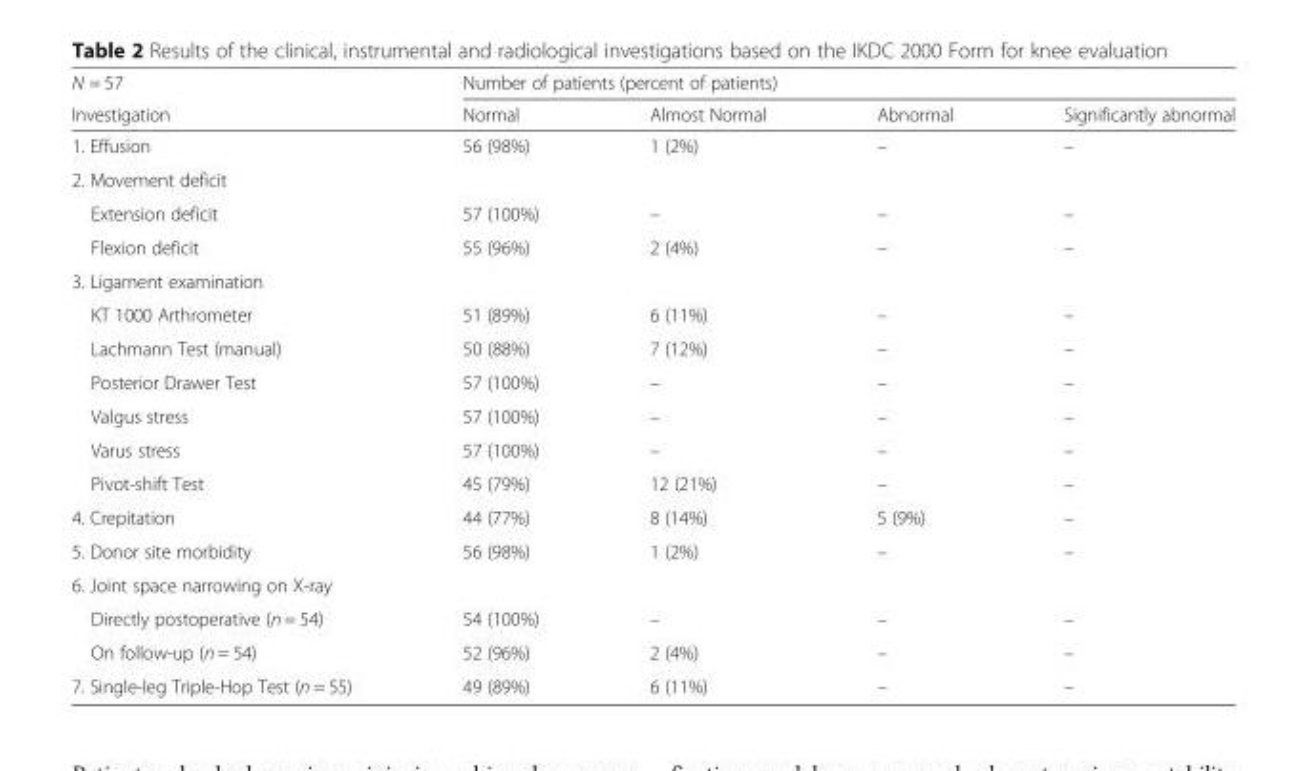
<table><thead><tr><td rowspan="2">N = 57 Investigation</td><td colspan="4">Number of patients (percent of patients)</td></tr><tr><td>Normal</td><td>Almost Normal</td><td>Abnormal</td><td>Significantly abnormal</td></tr></thead><tbody><tr><td>1. Effusion</td><td>56 (98%)</td><td>1 (2%)</td><td>–</td><td>–</td></tr><tr><td colspan="5">2. Movement deficit</td></tr><tr><td>Extension deficit</td><td>57 (100%)</td><td>–</td><td>–</td><td>–</td></tr><tr><td>Flexion deficit</td><td>55 (96%)</td><td>2 (4%)</td><td>–</td><td>–</td></tr><tr><td colspan="5">3. Ligament examination</td></tr><tr><td>KT 1000 Arthrometer</td><td>51 (89%)</td><td>6 (11%)</td><td>–</td><td>–</td></tr><tr><td>Lachmann Test (manual)</td><td>50 (88%)</td><td>7 (12%)</td><td>–</td><td>–</td></tr><tr><td>Posterior Drawer Test</td><td>57 (100%)</td><td>–</td><td>–</td><td>–</td></tr><tr><td>Valgus stress</td><td>57 (100%)</td><td>–</td><td>–</td><td>–</td></tr><tr><td>Varus stress</td><td>57 (100%)</td><td>–</td><td>–</td><td>–</td></tr><tr><td>Pivot-shift Test</td><td>45 (79%)</td><td>12 (21%)</td><td>–</td><td>–</td></tr><tr><td>4. Crepitation</td><td>44 (77%)</td><td>8 (14%)</td><td>5 (9%)</td><td>–</td></tr><tr><td>5. Donor site morbidity</td><td>56 (98%)</td><td>1 (2%)</td><td>–</td><td>–</td></tr><tr><td colspan="5">6. Joint space narrowing on X-ray</td></tr><tr><td>Directly postoperative (n = 54)</td><td>54 (100%)</td><td>–</td><td>–</td><td>–</td></tr><tr><td>On follow-up (n = 54)</td><td>52 (96%)</td><td>2 (4%)</td><td>–</td><td>–</td></tr><tr><td>7. Single-leg Triple-Hop Test (n = 55)</td><td>49 (89%)</td><td>6 (11%)</td><td>–</td><td>–</td></tr></tbody></table>